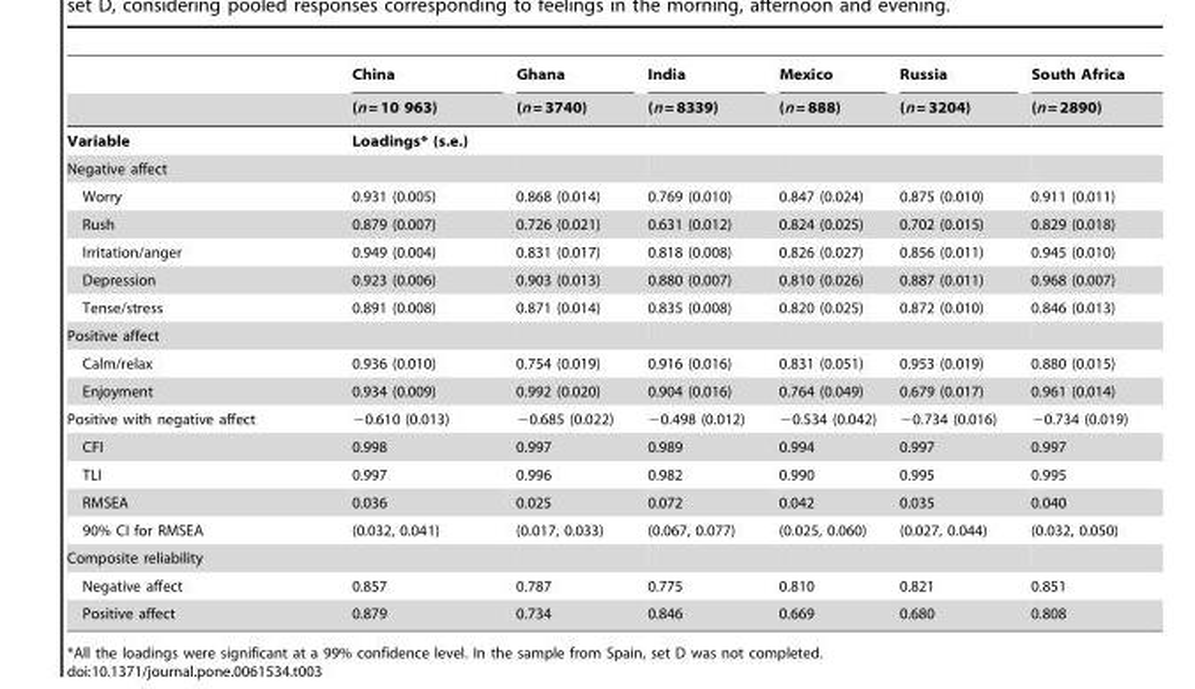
<table><thead><tr><td rowspan="2"></td><td rowspan="2">China (n = 10 963)</td><td rowspan="2">Ghana (n = 3740)</td><td rowspan="2">India (n = 8339)</td><td rowspan="2">Mexico (n = 888)</td><td rowspan="2">Russia (n = 3204)</td><td rowspan="2">South Africa (n = 2890)</td></tr><tr></tr></thead><tbody><tr><td>Variable</td><td colspan="6">Loadings* (s.e.)</td></tr><tr><td colspan="7">Negative affect</td></tr><tr><td>Worry</td><td>0.931 (0.005)</td><td>0.868 (0.014)</td><td>0.769 (0.010)</td><td>0.847 (0.024)</td><td>0.875 (0.010)</td><td>0.911 (0.011)</td></tr><tr><td>Rush</td><td>0.879 (0.007)</td><td>0.726 (0.021)</td><td>0.631 (0.012)</td><td>0.824 (0.025)</td><td>0.702 (0.015)</td><td>0.829 (0.018)</td></tr><tr><td>Irritation/anger</td><td>0.949 (0.004)</td><td>0.831 (0.017)</td><td>0.818 (0.008)</td><td>0.826 (0.027)</td><td>0.856 (0.011)</td><td>0.945 (0.010)</td></tr><tr><td>Depression</td><td>0.923 (0.006)</td><td>0.903 (0.013)</td><td>0.880 (0.007)</td><td>0.810 (0.026)</td><td>0.887 (0.011)</td><td>0.968 (0.007)</td></tr><tr><td>Tense/stress</td><td>0.891 (0.008)</td><td>0.871 (0.014)</td><td>0.835 (0.008)</td><td>0.820 (0.025)</td><td>0.872 (0.010)</td><td>0.846 (0.013)</td></tr><tr><td colspan="7">Positive affect</td></tr><tr><td>Calm/relax</td><td>0.936 (0.010)</td><td>0.754 (0.019)</td><td>0.916 (0.016)</td><td>0.831 (0.051)</td><td>0.953 (0.019)</td><td>0.880 (0.015)</td></tr><tr><td>Enjoyment</td><td>0.934 (0.009)</td><td>0.992 (0.020)</td><td>0.904 (0.016)</td><td>0.764 (0.049)</td><td>0.679 (0.017)</td><td>0.961 (0.014)</td></tr><tr><td>Positive with negative affect</td><td>−0.610 (0.013)</td><td>−0.685 (0.022)</td><td>−0.498 (0.012)</td><td>−0.534 (0.042)</td><td>−0.734 (0.016)</td><td>−0.734 (0.019)</td></tr><tr><td>CFI</td><td>0.998</td><td>0.997</td><td>0.989</td><td>0.994</td><td>0.997</td><td>0.997</td></tr><tr><td>TLI</td><td>0.997</td><td>0.996</td><td>0.982</td><td>0.990</td><td>0.995</td><td>0.995</td></tr><tr><td>RMSEA</td><td>0.036</td><td>0.025</td><td>0.072</td><td>0.042</td><td>0.035</td><td>0.040</td></tr><tr><td>90% CI for RMSEA</td><td>(0.032, 0.041)</td><td>(0.017, 0.033)</td><td>(0.067, 0.077)</td><td>(0.025, 0.060)</td><td>(0.027, 0.044)</td><td>(0.032, 0.050)</td></tr><tr><td colspan="7">Composite reliability</td></tr><tr><td>Negative affect</td><td>0.857</td><td>0.787</td><td>0.775</td><td>0.810</td><td>0.821</td><td>0.851</td></tr><tr><td>Positive affect</td><td>0.879</td><td>0.734</td><td>0.846</td><td>0.669</td><td>0.680</td><td>0.808</td></tr></tbody></table>